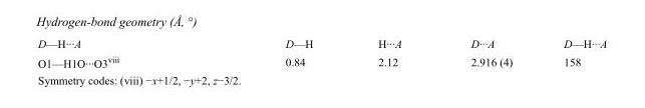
<table><tbody><tr><td>D—H···A</td><td>D—H</td><td>H···A</td><td>D···A</td><td>D—H···A</td></tr><tr><td>O1—H1O···O3<sup>viii</sup></td><td>0.84</td><td>2.12</td><td>2.916 (4)</td><td>158</td></tr></tbody></table>